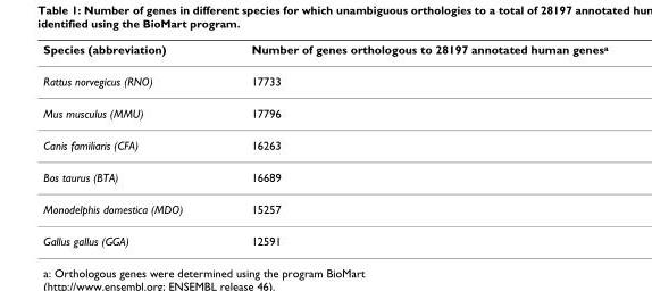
<table><thead><tr><td>Species (abbreviation)</td><td>Number of genes orthologous to 28197 annotated human genes<sup>a</sup></td></tr></thead><tbody><tr><td>Rattus norvegicus (RNO)</td><td>17733</td></tr><tr><td>Mus musculus (MMU)</td><td>17796</td></tr><tr><td>Canis familiaris (CFA)</td><td>16263</td></tr><tr><td>Bos taurus (BTA)</td><td>16689</td></tr><tr><td>Monodelphis domestica (MDO)</td><td>15257</td></tr><tr><td>Gallus gallus (GGA)</td><td>12591</td></tr></tbody></table>